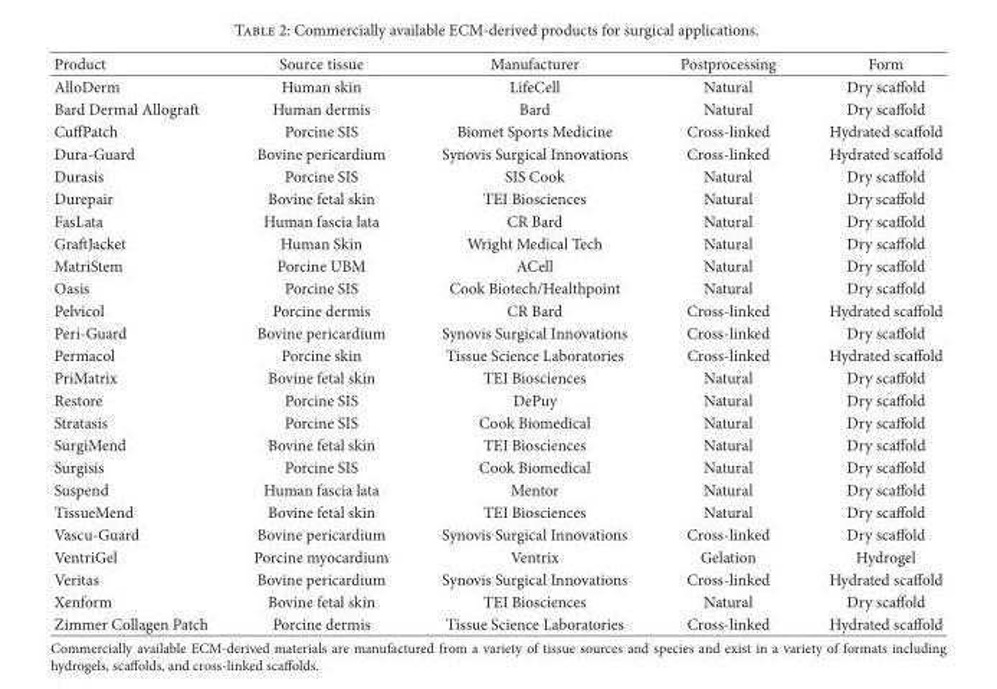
<table><thead><tr><td>Product</td><td>Source tissue</td><td>Manufacturer</td><td>Postprocessing</td><td>Form</td></tr></thead><tbody><tr><td>AlloDerm</td><td>Human skin</td><td>LifeCell</td><td>Natural</td><td>Dry scaffold</td></tr><tr><td>Bard Dermal Allograft</td><td>Human dermis</td><td>Bard</td><td>Natural</td><td>Dry scaffold</td></tr><tr><td>CuffPatch</td><td>Porcine SIS</td><td>Biomet Sports Medicine</td><td>Cross-linked</td><td>Hydrated scaffold</td></tr><tr><td>Dura-Guard</td><td>Bovine pericardium</td><td>Synovis Surgical Innovations</td><td>Cross-linked</td><td>Hydrated scaffold</td></tr><tr><td>Durasis</td><td>Porcine SIS</td><td>SIS Cook</td><td>Natural</td><td>Dry scaffold</td></tr><tr><td>Durepair</td><td>Bovine fetal skin</td><td>TEI Biosciences</td><td>Natural</td><td>Dry scaffold</td></tr><tr><td>FasLata</td><td>Human fascia lata</td><td>CR Bard</td><td>Natural</td><td>Dry scaffold</td></tr><tr><td>GraftJacket</td><td>Human Skin</td><td>Wright Medical Tech</td><td>Natural</td><td>Dry scaffold</td></tr><tr><td>MatriStem</td><td>Porcine UBM</td><td>ACell</td><td>Natural</td><td>Dry scaffold</td></tr><tr><td>Oasis</td><td>Porcine SIS</td><td>Cook Biotech/Healthpoint</td><td>Natural</td><td>Dry scaffold</td></tr><tr><td>Pelvicol</td><td>Porcine dermis</td><td>CR Bard</td><td>Cross-linked</td><td>Hydrated scaffold</td></tr><tr><td>Peri-Guard</td><td>Bovine pericardium</td><td>Synovis Surgical Innovations</td><td>Cross-linked</td><td>Dry scaffold</td></tr><tr><td>Permacol</td><td>Porcine skin</td><td>Tissue Science Laboratories</td><td>Cross-linked</td><td>Hydrated scaffold</td></tr><tr><td>PriMatrix</td><td>Bovine fetal skin</td><td>TEI Biosciences</td><td>Natural</td><td>Dry scaffold</td></tr><tr><td>Restore</td><td>Porcine SIS</td><td>DePuy</td><td>Natural</td><td>Dry scaffold</td></tr><tr><td>Stratasis</td><td>Porcine SIS</td><td>Cook Biomedical</td><td>Natural</td><td>Dry scaffold</td></tr><tr><td>SurgiMend</td><td>Bovine fetal skin</td><td>TEI Biosciences</td><td>Natural</td><td>Dry scaffold</td></tr><tr><td>Surgisis</td><td>Porcine SIS</td><td>Cook Biomedical</td><td>Natural</td><td>Dry scaffold</td></tr><tr><td>Suspend</td><td>Human fascia lata</td><td>Mentor</td><td>Natural</td><td>Dry scaffold</td></tr><tr><td>TissueMend</td><td>Bovine fetal skin</td><td>TEI Biosciences</td><td>Natural</td><td>Dry scaffold</td></tr><tr><td>Vascu-Guard</td><td>Bovine pericardium</td><td>Synovis Surgical Innovations</td><td>Cross-linked</td><td>Dry scaffold</td></tr><tr><td>VentriGel</td><td>Porcine myocardium</td><td>Ventrix</td><td>Gelation</td><td>Hydrogel</td></tr><tr><td>Veritas</td><td>Bovine pericardium</td><td>Synovis Surgical Innovations</td><td>Cross-linked</td><td>Hydrated scaffold</td></tr><tr><td>Xenform</td><td>Bovine fetal skin</td><td>TEI Biosciences</td><td>Natural</td><td>Dry scaffold</td></tr><tr><td>Zimmer Collagen Patch</td><td>Porcine dermis</td><td>Tissue Science Laboratories</td><td>Cross-linked</td><td>Hydrated scaffold</td></tr></tbody></table>